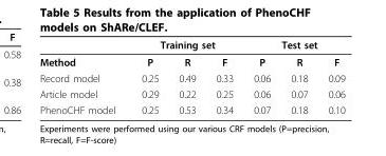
<table><thead><tr><td rowspan="2">Method</td><td colspan="3">Training set</td><td colspan="3">Test set</td></tr><tr><td>P</td><td>R</td><td>F</td><td>P</td><td>R</td><td>F</td></tr></thead><tbody><tr><td>Record model</td><td>0.25</td><td>0.49</td><td>0.33</td><td>0.06</td><td>0.18</td><td>0.09</td></tr><tr><td>Article model</td><td>0.29</td><td>0.22</td><td>0.25</td><td>0.06</td><td>0.07</td><td>0.06</td></tr><tr><td>PhenoCHF model</td><td>0.25</td><td>0.53</td><td>0.34</td><td>0.07</td><td>0.18</td><td>0.10</td></tr></tbody></table>